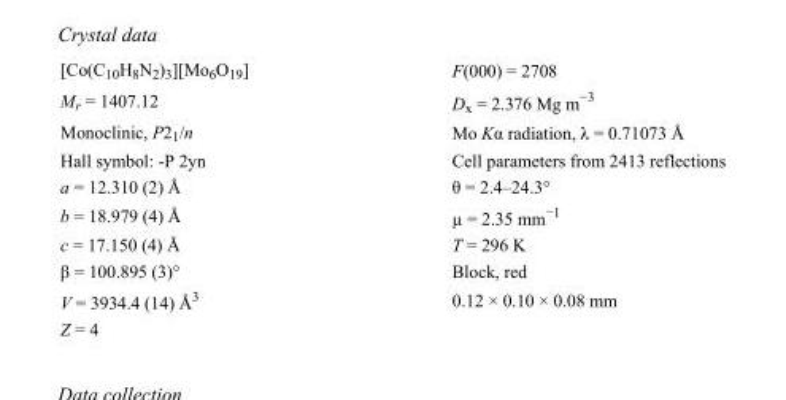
<table><tbody><tr><td>[Co(C<sub>10</sub>H<sub>8</sub>N<sub>2</sub>)<sub>3</sub>][Mo<sub>6</sub>O<sub>19</sub>]</td><td>F(000) = 2708</td></tr><tr><td>M<sub>r</sub> = 1407.12</td><td>D<sub>x</sub> = 2.376 Mg m<sup>−3</sup></td></tr><tr><td>Monoclinic, P2<sub>1</sub>/n</td><td>Mo Kα radiation, λ = 0.71073 Å</td></tr><tr><td>Hall symbol: -P 2yn</td><td>Cell parameters from 2413 reflections</td></tr><tr><td>a = 12.310 (2) Å</td><td>θ = 2.4–24.3°</td></tr><tr><td>b = 18.979 (4) Å</td><td>µ = 2.35 mm<sup>−1</sup></td></tr><tr><td>c = 17.150 (4) Å</td><td>T = 296 K</td></tr><tr><td>β = 100.895 (3)°</td><td>Block, red</td></tr><tr><td>V = 3934.4 (14) Å<sup>3</sup></td><td>0.12 × 0.10 × 0.08 mm</td></tr><tr><td>Z = 4</td><td></td></tr></tbody></table>